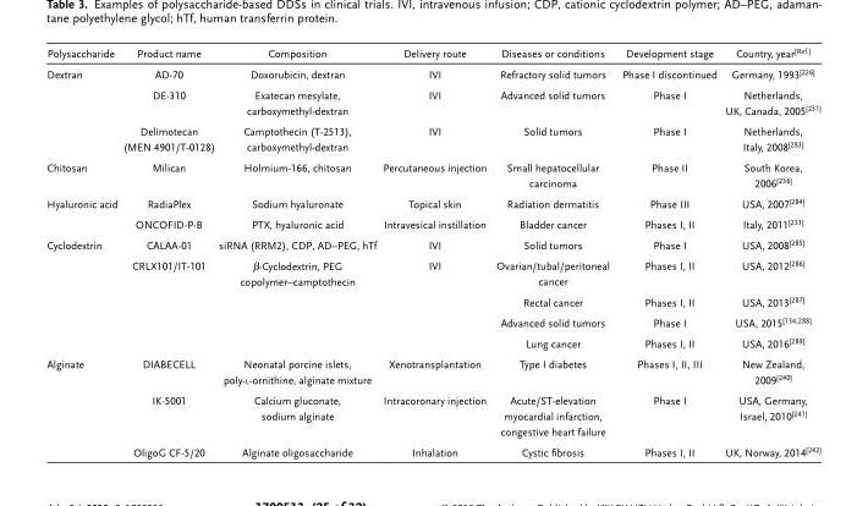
<table><thead><tr><td>Polysaccharide</td><td>Product name</td><td>Composition</td><td>Delivery route</td><td>Diseases or conditions</td><td>Development stage</td><td>Country, year<sup>[Ref.]</sup></td></tr></thead><tbody><tr><td rowspan="3">Dextran</td><td>AD-70</td><td>Doxorubicin, dextran</td><td>IVI</td><td>Refractory solid tumors</td><td>Phase I discontinued</td><td>Germany, 1993[226]</td></tr><tr><td>DE-310</td><td>Exatecan mesylate, carboxymethyl-dextran</td><td>IVI</td><td>Advanced solid tumors</td><td>Phase I</td><td>Netherlands, UK, Canada, 2005[231]</td></tr><tr><td>Delimotecan (MEN 4901/T-0128)</td><td>Camptothecin (T-2513), carboxymethyl-dextran</td><td>IVI</td><td>Solid tumors</td><td>Phase I</td><td>Netherlands, Italy, 2008[283]</td></tr><tr><td>Chitosan</td><td>Milican</td><td>Holmium-166, chitosan</td><td>Percutaneous injection</td><td>Small hepatocellular carcinoma</td><td>Phase II</td><td>South Korea, 2006[236]</td></tr><tr><td rowspan="2">Hyaluronic acid</td><td>RadiaPlex</td><td>Sodium hyaluronate</td><td>Topical skin</td><td>Radiation dermatitis</td><td>Phase III</td><td>USA, 2007[284]</td></tr><tr><td>ONCOFID-P-B</td><td>PTX, hyaluronic acid</td><td>Intravesical instillation</td><td>Bladder cancer</td><td>Phases I, II</td><td>Italy, 2011[233]</td></tr><tr><td rowspan="5">Cyclodextrin</td><td>CALAA-01</td><td>siRNA (RRM2), CDP, AD–PEG, hTf</td><td>IVI</td><td>Solid tumors</td><td>Phase I</td><td>USA, 2008[285]</td></tr><tr><td>CRLX101/IT-101</td><td>β-Cyclodextrin, PEG copolymer–camptothecin</td><td>IVI</td><td>Ovarian/tubal/peritoneal cancer</td><td>Phases I, II</td><td>USA, 2012[286]</td></tr><tr><td></td><td></td><td></td><td>Rectal cancer</td><td>Phases I, II</td><td>USA, 2013[287]</td></tr><tr><td></td><td></td><td></td><td>Advanced solid tumors</td><td>Phase I</td><td>USA, 2015[134,288]</td></tr><tr><td></td><td></td><td></td><td>Lung cancer</td><td>Phases I, II</td><td>USA, 2016[289]</td></tr><tr><td rowspan="3">Alginate</td><td>DIABECELL</td><td>Neonatal porcine islets, poly-l-ornithine, alginate mixture</td><td>Xenotransplantation</td><td>Type I diabetes</td><td>Phases I, II, III</td><td>New Zealand, 2009[240]</td></tr><tr><td>IK-5001</td><td>Calcium gluconate, sodium alginate</td><td>Intracoronary injection</td><td>Acute/ST-elevation myocardial infarction, congestive heart failure</td><td>Phase I</td><td>USA, Germany, Israel, 2010[241]</td></tr><tr><td>OligoG CF-5/20</td><td>Alginate oligosaccharide</td><td>Inhalation</td><td>Cystic fibrosis</td><td>Phases I, II</td><td>UK, Norway, 2014[242]</td></tr></tbody></table>